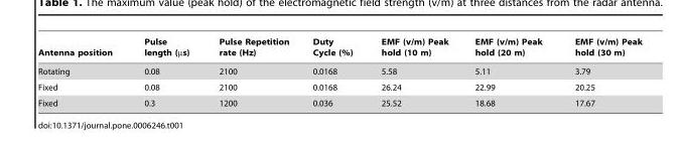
<table><thead><tr><td>Antenna position</td><td>Pulse length (µs)</td><td>Pulse Repetition rate (Hz)</td><td>Duty Cycle (%)</td><td>EMF (v/m) Peak hold (10 m)</td><td>EMF (v/m) Peak hold (20 m)</td><td>EMF (v/m) Peak hold (30 m)</td></tr></thead><tbody><tr><td>Rotating</td><td>0.08</td><td>2100</td><td>0.0168</td><td>5.58</td><td>5.11</td><td>3.79</td></tr><tr><td>Fixed</td><td>0.08</td><td>2100</td><td>0.0168</td><td>26.24</td><td>22.99</td><td>20.25</td></tr><tr><td>Fixed</td><td>0.3</td><td>1200</td><td>0.036</td><td>25.52</td><td>18.68</td><td>17.67</td></tr></tbody></table>